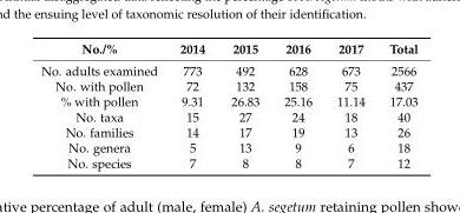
<table><thead><tr><td>No./%</td><td>2014</td><td>2015</td><td>2016</td><td>2017</td><td>Total</td></tr></thead><tbody><tr><td>No. adults examined</td><td>773</td><td>492</td><td>628</td><td>673</td><td>2566</td></tr><tr><td>No. with pollen</td><td>72</td><td>132</td><td>158</td><td>75</td><td>437</td></tr><tr><td>% with pollen</td><td>9.31</td><td>26.83</td><td>25.16</td><td>11.14</td><td>17.03</td></tr><tr><td>No. taxa</td><td>15</td><td>27</td><td>24</td><td>18</td><td>40</td></tr><tr><td>No. families</td><td>14</td><td>17</td><td>19</td><td>13</td><td>26</td></tr><tr><td>No. genera</td><td>5</td><td>13</td><td>9</td><td>6</td><td>18</td></tr><tr><td>No. species</td><td>7</td><td>8</td><td>8</td><td>7</td><td>12</td></tr></tbody></table>